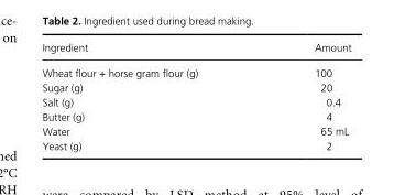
<table><thead><tr><td>Ingredient</td><td>Amount</td></tr></thead><tbody><tr><td>Wheat flour + horse gram flour (g)</td><td>100</td></tr><tr><td>Sugar (g)</td><td>20</td></tr><tr><td>Salt (g)</td><td>0.4</td></tr><tr><td>Butter (g)</td><td>4</td></tr><tr><td>Water</td><td>65 mL</td></tr><tr><td>Yeast (g)</td><td>2</td></tr></tbody></table>